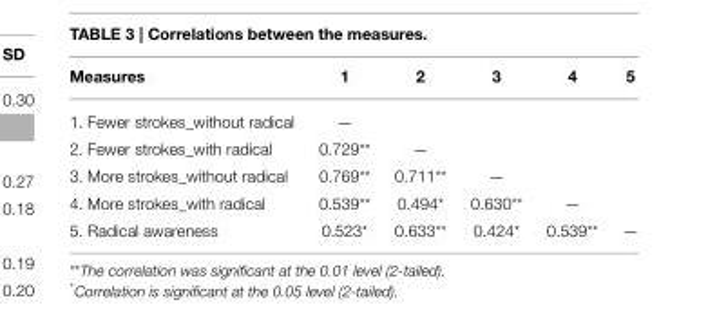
<table><thead><tr><td>Measures</td><td>1</td><td>2</td><td>3</td><td>4</td><td>5</td></tr></thead><tbody><tr><td>1. Fewer strokes_without radical</td><td>—</td><td></td><td></td><td></td><td></td></tr><tr><td>2. Fewer strokes_with radical</td><td>0.729**</td><td>—</td><td></td><td></td><td></td></tr><tr><td>3. More strokes_without radical</td><td>0.769**</td><td>0.711**</td><td>—</td><td></td><td></td></tr><tr><td>4. More strokes_with radical</td><td>0.539**</td><td>0.494*</td><td>0.630**</td><td>—</td><td></td></tr><tr><td>5. Radical awareness</td><td>0.523*</td><td>0.633**</td><td>0.424*</td><td>0.539**</td><td>—</td></tr></tbody></table>